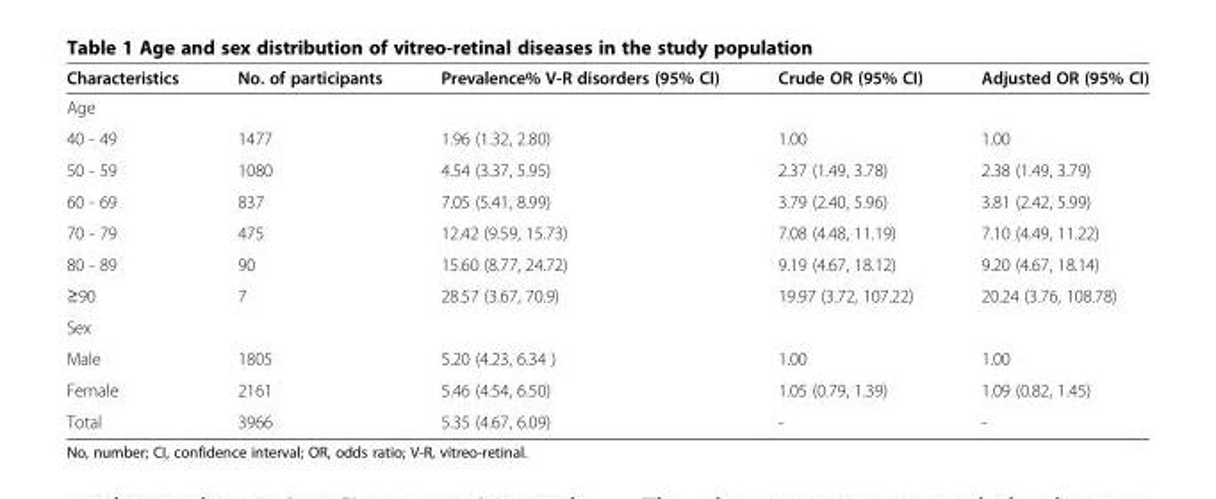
<table><thead><tr><td>Characteristics</td><td>No. of participants</td><td>Prevalence% V-R disorders (95% CI)</td><td>Crude OR (95% CI)</td><td>Adjusted OR (95% CI)</td></tr></thead><tbody><tr><td colspan="5">Age</td></tr><tr><td>40 - 49</td><td>1477</td><td>1.96 (1.32, 2.80)</td><td>1.00</td><td>1.00</td></tr><tr><td>50 - 59</td><td>1080</td><td>4.54 (3.37, 5.95)</td><td>2.37 (1.49, 3.78)</td><td>2.38 (1.49, 3.79)</td></tr><tr><td>60 - 69</td><td>837</td><td>7.05 (5.41, 8.99)</td><td>3.79 (2.40, 5.96)</td><td>3.81 (2.42, 5.99)</td></tr><tr><td>70 - 79</td><td>475</td><td>12.42 (9.59, 15.73)</td><td>7.08 (4.48, 11.19)</td><td>7.10 (4.49, 11.22)</td></tr><tr><td>80 - 89</td><td>90</td><td>15.60 (8.77, 24.72)</td><td>9.19 (4.67, 18.12)</td><td>9.20 (4.67, 18.14)</td></tr><tr><td>≥90</td><td>7</td><td>28.57 (3.67, 70.9)</td><td>19.97 (3.72, 107.22)</td><td>20.24 (3.76, 108.78)</td></tr><tr><td colspan="5">Sex</td></tr><tr><td>Male</td><td>1805</td><td>5.20 (4.23, 6.34 )</td><td>1.00</td><td>1.00</td></tr><tr><td>Female</td><td>2161</td><td>5.46 (4.54, 6.50)</td><td>1.05 (0.79, 1.39)</td><td>1.09 (0.82, 1.45)</td></tr><tr><td>Total</td><td>3966</td><td>5.35 (4.67, 6.09)</td><td>-</td><td>-</td></tr></tbody></table>